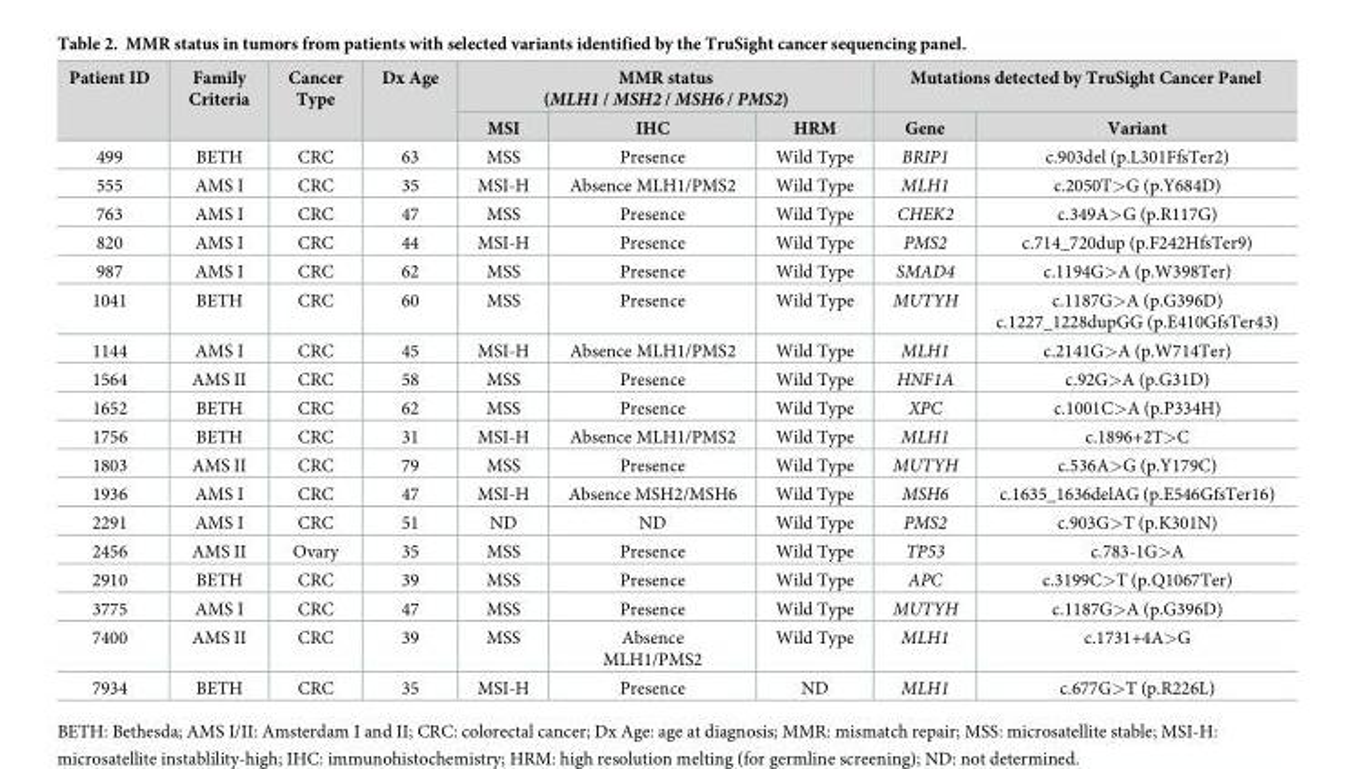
<table><thead><tr><td rowspan="2">Patient ID</td><td rowspan="2">Family Criteria</td><td rowspan="2">Cancer Type</td><td rowspan="2">Dx Age</td><td colspan="3">MMR status (MLH1 / MSH2 / MSH6 / PMS2)</td><td colspan="2">Mutations detected by TruSight Cancer Panel</td></tr><tr><td>MSI</td><td>IHC</td><td>HRM</td><td>Gene</td><td>Variant</td></tr></thead><tbody><tr><td>499</td><td>BETH</td><td>CRC</td><td>63</td><td>MSS</td><td>Presence</td><td>Wild Type</td><td>BRIP1</td><td>c.903del (p.L301FfsTer2)</td></tr><tr><td>555</td><td>AMS I</td><td>CRC</td><td>35</td><td>MSI-H</td><td>Absence MLH1/PMS2</td><td>Wild Type</td><td>MLH1</td><td>c.2050T&gt;G (p.Y684D)</td></tr><tr><td>763</td><td>AMS I</td><td>CRC</td><td>47</td><td>MSS</td><td>Presence</td><td>Wild Type</td><td>CHEK2</td><td>c.349A&gt;G (p.R117G)</td></tr><tr><td>820</td><td>AMS I</td><td>CRC</td><td>44</td><td>MSI-H</td><td>Presence</td><td>Wild Type</td><td>PMS2</td><td>c.714_720dup (p.F242HfsTer9)</td></tr><tr><td>987</td><td>AMS I</td><td>CRC</td><td>62</td><td>MSS</td><td>Presence</td><td>Wild Type</td><td>SMAD4</td><td>c.1194G&gt;A (p.W398Ter)</td></tr><tr><td>1041</td><td>BETH</td><td>CRC</td><td>60</td><td>MSS</td><td>Presence</td><td>Wild Type</td><td>MUTYH</td><td>c.1187G&gt;A (p.G396D) c.1227_1228dupGG (p.E410GfsTer43)</td></tr><tr><td>1144</td><td>AMS I</td><td>CRC</td><td>45</td><td>MSI-H</td><td>Absence MLH1/PMS2</td><td>Wild Type</td><td>MLH1</td><td>c.2141G&gt;A (p.W714Ter)</td></tr><tr><td>1564</td><td>AMS II</td><td>CRC</td><td>58</td><td>MSS</td><td>Presence</td><td>Wild Type</td><td>HNF1A</td><td>c.92G&gt;A (p.G31D)</td></tr><tr><td>1652</td><td>BETH</td><td>CRC</td><td>62</td><td>MSS</td><td>Presence</td><td>Wild Type</td><td>XPC</td><td>c.1001C&gt;A (p.P334H)</td></tr><tr><td>1756</td><td>BETH</td><td>CRC</td><td>31</td><td>MSI-H</td><td>Absence MLH1/PMS2</td><td>Wild Type</td><td>MLH1</td><td>c.1896+2T&gt;C</td></tr><tr><td>1803</td><td>AMS II</td><td>CRC</td><td>79</td><td>MSS</td><td>Presence</td><td>Wild Type</td><td>MUTYH</td><td>c.536A&gt;G (p.Y179C)</td></tr><tr><td>1936</td><td>AMS I</td><td>CRC</td><td>47</td><td>MSI-H</td><td>Absence MSH2/MSH6</td><td>Wild Type</td><td>MSH6</td><td>c.1635_1636delAG (p.E546GfsTer16)</td></tr><tr><td>2291</td><td>AMS I</td><td>CRC</td><td>51</td><td>ND</td><td>ND</td><td>Wild Type</td><td>PMS2</td><td>c.903G&gt;T (p.K301N)</td></tr><tr><td>2456</td><td>AMS II</td><td>Ovary</td><td>35</td><td>MSS</td><td>Presence</td><td>Wild Type</td><td>TP53</td><td>c.783-1G&gt;A</td></tr><tr><td>2910</td><td>BETH</td><td>CRC</td><td>39</td><td>MSS</td><td>Presence</td><td>Wild Type</td><td>APC</td><td>c.3199C&gt;T (p.Q1067Ter)</td></tr><tr><td>3775</td><td>AMS I</td><td>CRC</td><td>47</td><td>MSS</td><td>Presence</td><td>Wild Type</td><td>MUTYH</td><td>c.1187G&gt;A (p.G396D)</td></tr><tr><td>7400</td><td>AMS II</td><td>CRC</td><td>39</td><td>MSS</td><td>Absence MLH1/PMS2</td><td>Wild Type</td><td>MLH1</td><td>c.1731+4A&gt;G</td></tr><tr><td>7934</td><td>BETH</td><td>CRC</td><td>35</td><td>MSI-H</td><td>Presence</td><td>ND</td><td>MLH1</td><td>c.677G&gt;T (p.R226L)</td></tr></tbody></table>